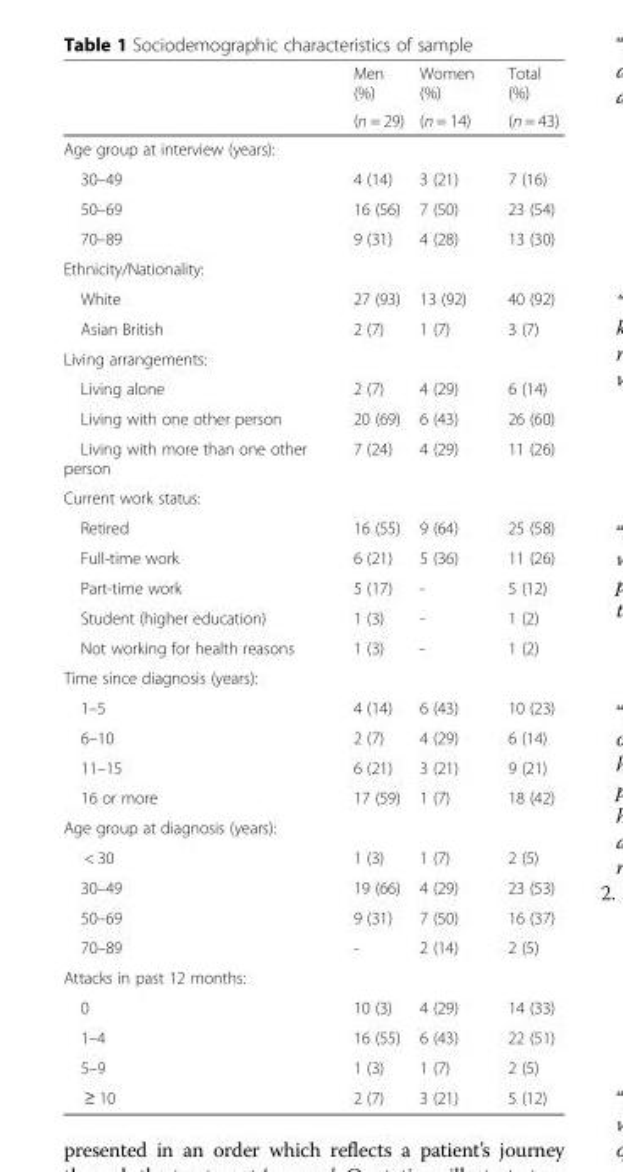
<table><thead><tr><td rowspan="2"></td><td rowspan="2">Men (%) (n = 29)</td><td rowspan="2">Women (%) (n = 14)</td><td rowspan="2">Total (%) (n = 43)</td></tr><tr></tr></thead><tbody><tr><td colspan="4">Age group at interview (years):</td></tr><tr><td>30–49</td><td>4 (14)</td><td>3 (21)</td><td>7 (16)</td></tr><tr><td>50–69</td><td>16 (56)</td><td>7 (50)</td><td>23 (54)</td></tr><tr><td>70–89</td><td>9 (31)</td><td>4 (28)</td><td>13 (30)</td></tr><tr><td colspan="4">Ethnicity/Nationality:</td></tr><tr><td>White</td><td>27 (93)</td><td>13 (92)</td><td>40 (92)</td></tr><tr><td>Asian British</td><td>2 (7)</td><td>1 (7)</td><td>3 (7)</td></tr><tr><td colspan="4">Living arrangements:</td></tr><tr><td>Living alone</td><td>2 (7)</td><td>4 (29)</td><td>6 (14)</td></tr><tr><td>Living with one other person</td><td>20 (69)</td><td>6 (43)</td><td>26 (60)</td></tr><tr><td>Living with more than one other person</td><td>7 (24)</td><td>4 (29)</td><td>11 (26)</td></tr><tr><td colspan="4">Current work status:</td></tr><tr><td>Retired</td><td>16 (55)</td><td>9 (64)</td><td>25 (58)</td></tr><tr><td>Full-time work</td><td>6 (21)</td><td>5 (36)</td><td>11 (26)</td></tr><tr><td>Part-time work</td><td>5 (17)</td><td>-</td><td>5 (12)</td></tr><tr><td>Student (higher education)</td><td>1 (3)</td><td>-</td><td>1 (2)</td></tr><tr><td>Not working for health reasons</td><td>1 (3)</td><td>-</td><td>1 (2)</td></tr><tr><td colspan="4">Time since diagnosis (years):</td></tr><tr><td>1–5</td><td>4 (14)</td><td>6 (43)</td><td>10 (23)</td></tr><tr><td>6–10</td><td>2 (7)</td><td>4 (29)</td><td>6 (14)</td></tr><tr><td>11–15</td><td>6 (21)</td><td>3 (21)</td><td>9 (21)</td></tr><tr><td>16 or more</td><td>17 (59)</td><td>1 (7)</td><td>18 (42)</td></tr><tr><td colspan="4">Age group at diagnosis (years):</td></tr><tr><td>&lt; 30</td><td>1 (3)</td><td>1 (7)</td><td>2 (5)</td></tr><tr><td>30–49</td><td>19 (66)</td><td>4 (29)</td><td>23 (53)</td></tr><tr><td>50–69</td><td>9 (31)</td><td>7 (50)</td><td>16 (37)</td></tr><tr><td>70–89</td><td>-</td><td>2 (14)</td><td>2 (5)</td></tr><tr><td colspan="4">Attacks in past 12 months:</td></tr><tr><td>0</td><td>10 (3)</td><td>4 (29)</td><td>14 (33)</td></tr><tr><td>1–4</td><td>16 (55)</td><td>6 (43)</td><td>22 (51)</td></tr><tr><td>5–9</td><td>1 (3)</td><td>1 (7)</td><td>2 (5)</td></tr><tr><td>≥ 10</td><td>2 (7)</td><td>3 (21)</td><td>5 (12)</td></tr></tbody></table>